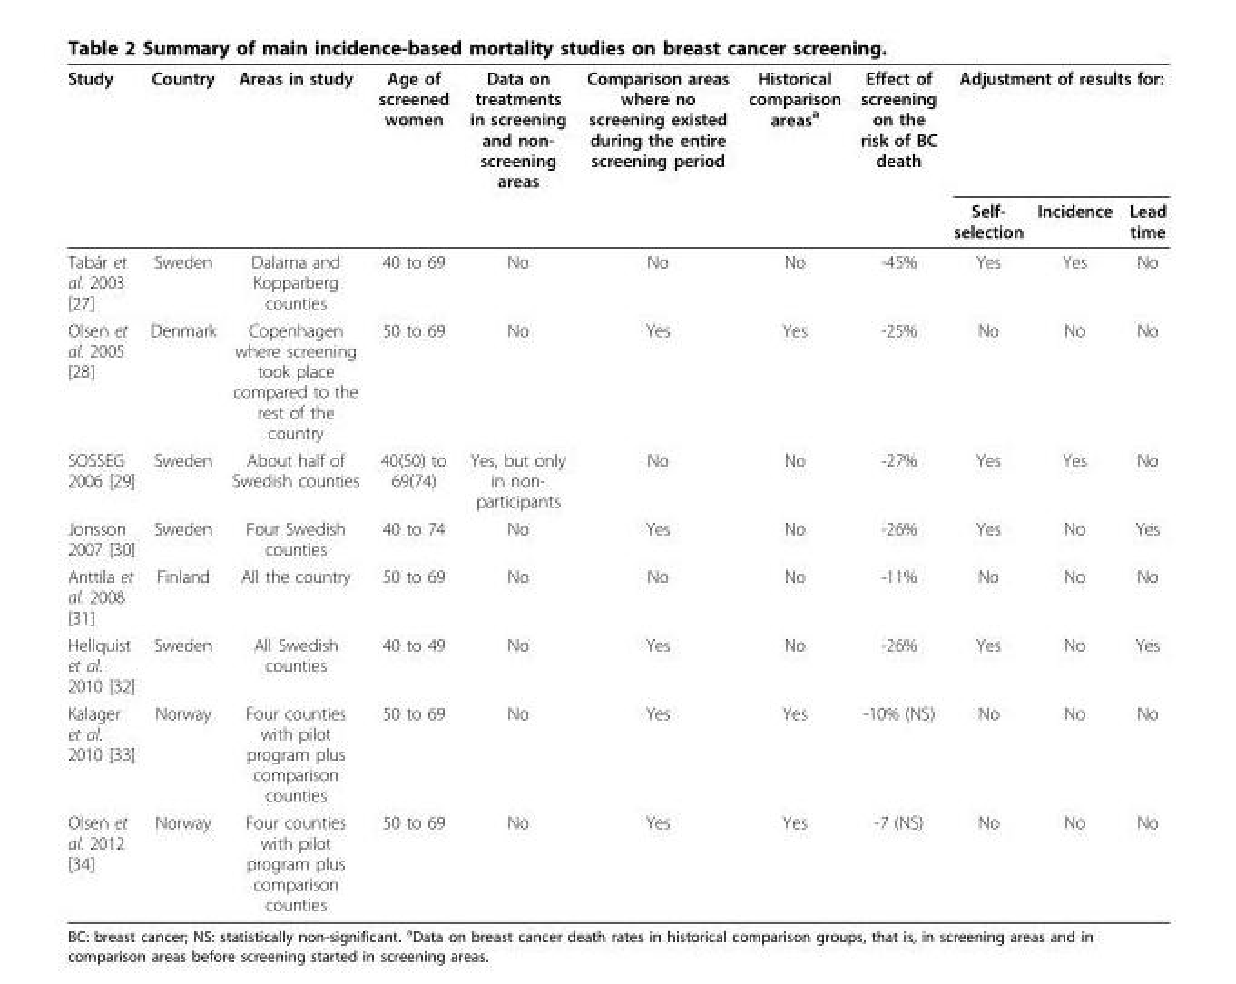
<table><thead><tr><td rowspan="2">Study</td><td rowspan="2">Country</td><td rowspan="2">Areas in study</td><td rowspan="2">Age of screened women</td><td rowspan="2">Data on treatments in screening and non- screening areas</td><td rowspan="2">Comparison areas where no screening existed during the entire screening period</td><td rowspan="2">Historical comparison areas<sup>a</sup></td><td rowspan="2">Effect of screening on the risk of BC death</td><td colspan="3">Adjustment of results for:</td></tr><tr><td>Self- selection</td><td>Incidence</td><td>Lead time</td></tr></thead><tbody><tr><td>Tabár et al. 2003 [27]</td><td>Sweden</td><td>Dalarna and Kopparberg counties</td><td>40 to 69</td><td>No</td><td>No</td><td>No</td><td>-45%</td><td>Yes</td><td>Yes</td><td>No</td></tr><tr><td>Olsen et al. 2005 [28]</td><td>Denmark</td><td>Copenhagen where screening took place compared to the rest of the country</td><td>50 to 69</td><td>No</td><td>Yes</td><td>Yes</td><td>-25%</td><td>No</td><td>No</td><td>No</td></tr><tr><td>SOSSEG 2006 [29]</td><td>Sweden</td><td>About half of Swedish counties</td><td>40(50) to 69(74)</td><td>Yes, but only in non- participants</td><td>No</td><td>No</td><td>-27%</td><td>Yes</td><td>Yes</td><td>No</td></tr><tr><td>Jonsson 2007 [30]</td><td>Sweden</td><td>Four Swedish counties</td><td>40 to 74</td><td>No</td><td>Yes</td><td>No</td><td>-26%</td><td>Yes</td><td>No</td><td>Yes</td></tr><tr><td>Anttila et al. 2008 [31]</td><td>Finland</td><td>All the country</td><td>50 to 69</td><td>No</td><td>No</td><td>No</td><td>-11%</td><td>No</td><td>No</td><td>No</td></tr><tr><td>Hellquist et al. 2010 [32]</td><td>Sweden</td><td>All Swedish counties</td><td>40 to 49</td><td>No</td><td>Yes</td><td>No</td><td>-26%</td><td>Yes</td><td>No</td><td>Yes</td></tr><tr><td>Kalager et al. 2010 [33]</td><td>Norway</td><td>Four counties with pilot program plus comparison counties</td><td>50 to 69</td><td>No</td><td>Yes</td><td>Yes</td><td>-10% (NS)</td><td>No</td><td>No</td><td>No</td></tr><tr><td>Olsen et al. 2012 [34]</td><td>Norway</td><td>Four counties with pilot program plus comparison counties</td><td>50 to 69</td><td>No</td><td>Yes</td><td>Yes</td><td>-7 (NS)</td><td>No</td><td>No</td><td>No</td></tr></tbody></table>